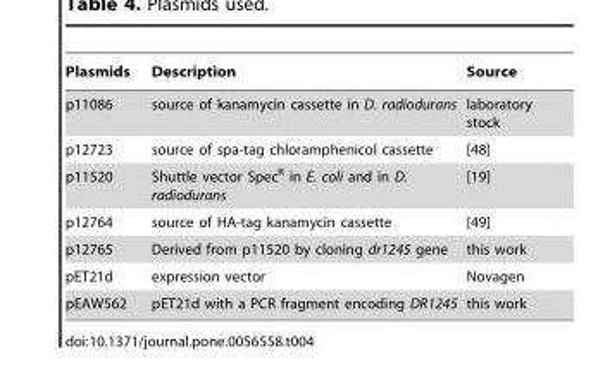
<table><thead><tr><td>Plasmids</td><td>Description</td><td>Source</td></tr></thead><tbody><tr><td>p11086</td><td>source of kanamycin cassette in D. radiodurans</td><td>laboratory stock</td></tr><tr><td>p12723</td><td>source of spa-tag chloramphenicol cassette</td><td>[48]</td></tr><tr><td>p11520</td><td>Shuttle vector Spec<sup>R</sup> in E. coli and in D. radiodurans</td><td>[19]</td></tr><tr><td>p12764</td><td>source of HA-tag kanamycin cassette</td><td>[49]</td></tr><tr><td>p12765</td><td>Derived from p11520 by cloning dr1245 gene</td><td>this work</td></tr><tr><td>pET21d</td><td>expression vector</td><td>Novagen</td></tr><tr><td>pEAW562</td><td>pET21d with a PCR fragment encoding DR1245</td><td>this work</td></tr></tbody></table>